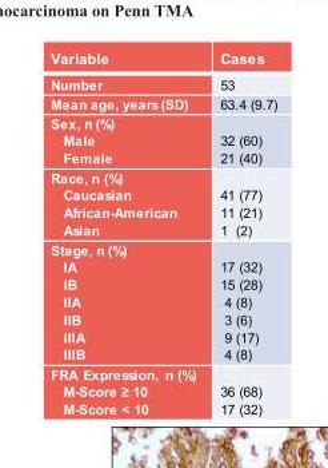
<table><thead><tr><td>Variable</td><td>Cases</td></tr></thead><tbody><tr><td>Number</td><td>53</td></tr><tr><td>Mean age, years(SD)</td><td>63.4 (9.7)</td></tr><tr><td>Sex, n (%) Male Female</td><td>32 (60) 21 (40)</td></tr><tr><td>Race, n (%) Caucasian African-American Asian</td><td>41 (77) 11 (21) 1 (2)</td></tr><tr><td>Stage, n (%) IA IB IIA IIB IIIA IIIB</td><td>17 (32) 15 (28) 4 (8) 3 (6) 9 (17) 4 (8)</td></tr><tr><td>FRA Expression, n (%) M-Score ≥ 10 M-Score &lt; 10</td><td>36 (68) 17 (32)</td></tr></tbody></table>